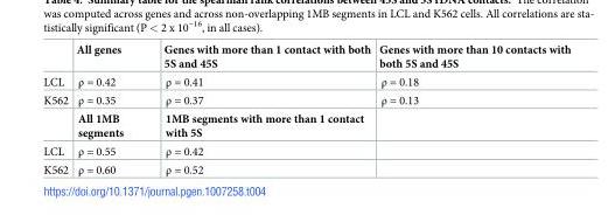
<table><thead><tr><td></td><td>All genes</td><td>Genes with more than 1 contact with both 5S and 45S</td><td>Genes with more than 10 contacts with both 5S and 45S</td></tr></thead><tbody><tr><td>LCL</td><td>ρ = 0.42</td><td>ρ = 0.41</td><td>ρ = 0.18</td></tr><tr><td rowspan="2">K562</td><td>ρ = 0.35</td><td>ρ = 0.37</td><td>ρ = 0.13</td></tr><tr><td>All 1MB segments</td><td>1MB segments with more than 1 contact with 5S</td><td></td></tr><tr><td>LCL</td><td>ρ = 0.55</td><td>ρ = 0.42</td><td></td></tr><tr><td>K562</td><td>ρ = 0.60</td><td>ρ = 0.52</td><td></td></tr></tbody></table>